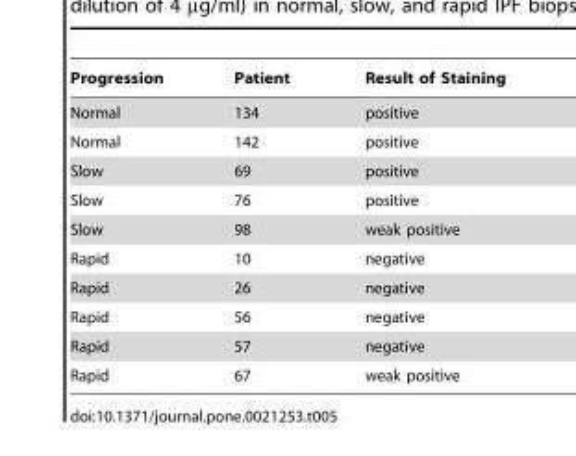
<table><thead><tr><td>Progression</td><td>Patient</td><td>Result of Staining</td></tr></thead><tbody><tr><td>Normal</td><td>134</td><td>positive</td></tr><tr><td>Normal</td><td>142</td><td>positive</td></tr><tr><td>Slow</td><td>69</td><td>positive</td></tr><tr><td>Slow</td><td>76</td><td>positive</td></tr><tr><td>Slow</td><td>98</td><td>weak positive</td></tr><tr><td>Rapid</td><td>10</td><td>negative</td></tr><tr><td>Rapid</td><td>26</td><td>negative</td></tr><tr><td>Rapid</td><td>56</td><td>negative</td></tr><tr><td>Rapid</td><td>57</td><td>negative</td></tr><tr><td>Rapid</td><td>67</td><td>weak positive</td></tr></tbody></table>